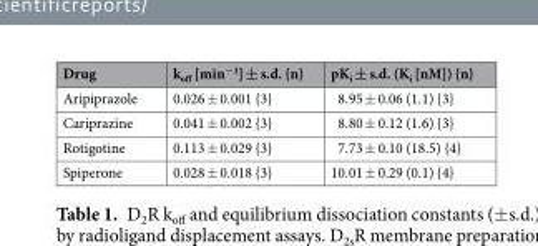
<table><thead><tr><td>Drug</td><td>k<sub>off</sub> [min<sup>−1</sup>] ± s.d. {n}</td><td>pK<sub>i</sub> ± s.d. (K<sub>i</sub> [nM]) {n}</td></tr></thead><tbody><tr><td>Aripiprazole</td><td>0.026 ± 0.001 {3}</td><td>8.95 ± 0.06 (1.1) {3}</td></tr><tr><td>Cariprazine</td><td>0.041 ± 0.002 {3}</td><td>8.80 ± 0.12 (1.6) {3}</td></tr><tr><td>Rotigotine</td><td>0.113 ± 0.029 {3}</td><td>7.73 ± 0.10 (18.5) {4}</td></tr><tr><td>Spiperone</td><td>0.028 ± 0.018 {3}</td><td>10.01 ± 0.29 (0.1) {4}</td></tr></tbody></table>